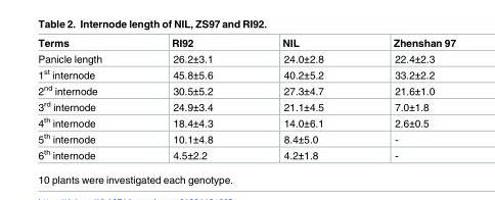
<table><thead><tr><td>Terms</td><td>RI92</td><td>NIL</td><td>Zhenshan 97</td></tr></thead><tbody><tr><td>Panicle length</td><td>26.2±3.1</td><td>24.0±2.8</td><td>22.4±2.3</td></tr><tr><td>1<sup>st</sup> internode</td><td>45.8±5.6</td><td>40.2±5.2</td><td>33.2±2.2</td></tr><tr><td>2<sup>nd</sup> internode</td><td>30.5±5.2</td><td>27.3±4.7</td><td>21.6±1.0</td></tr><tr><td>3<sup>rd</sup> internode</td><td>24.9±3.4</td><td>21.1±4.5</td><td>7.0±1.8</td></tr><tr><td>4<sup>th</sup> internode</td><td>18.4±4.3</td><td>14.0±6.1</td><td>2.6±0.5</td></tr><tr><td>5<sup>th</sup> internode</td><td>10.1±4.8</td><td>8.4±5.0</td><td>-</td></tr><tr><td>6<sup>th</sup> internode</td><td>4.5±2.2</td><td>4.2±1.8</td><td>-</td></tr></tbody></table>